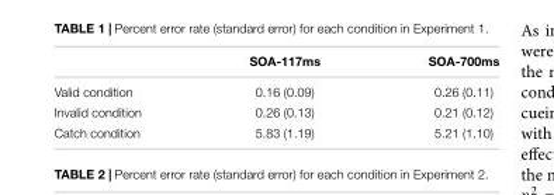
<table><thead><tr><td></td><td>SOA-117ms</td><td>SOA-700ms</td></tr></thead><tbody><tr><td>Valid condition</td><td>0.16 (0.09)</td><td>0.26 (0.11)</td></tr><tr><td>Invalid condition</td><td>0.26 (0.13)</td><td>0.21 (0.12)</td></tr><tr><td>Catch condition</td><td>5.83 (1.19)</td><td>5.21 (1.10)</td></tr></tbody></table>